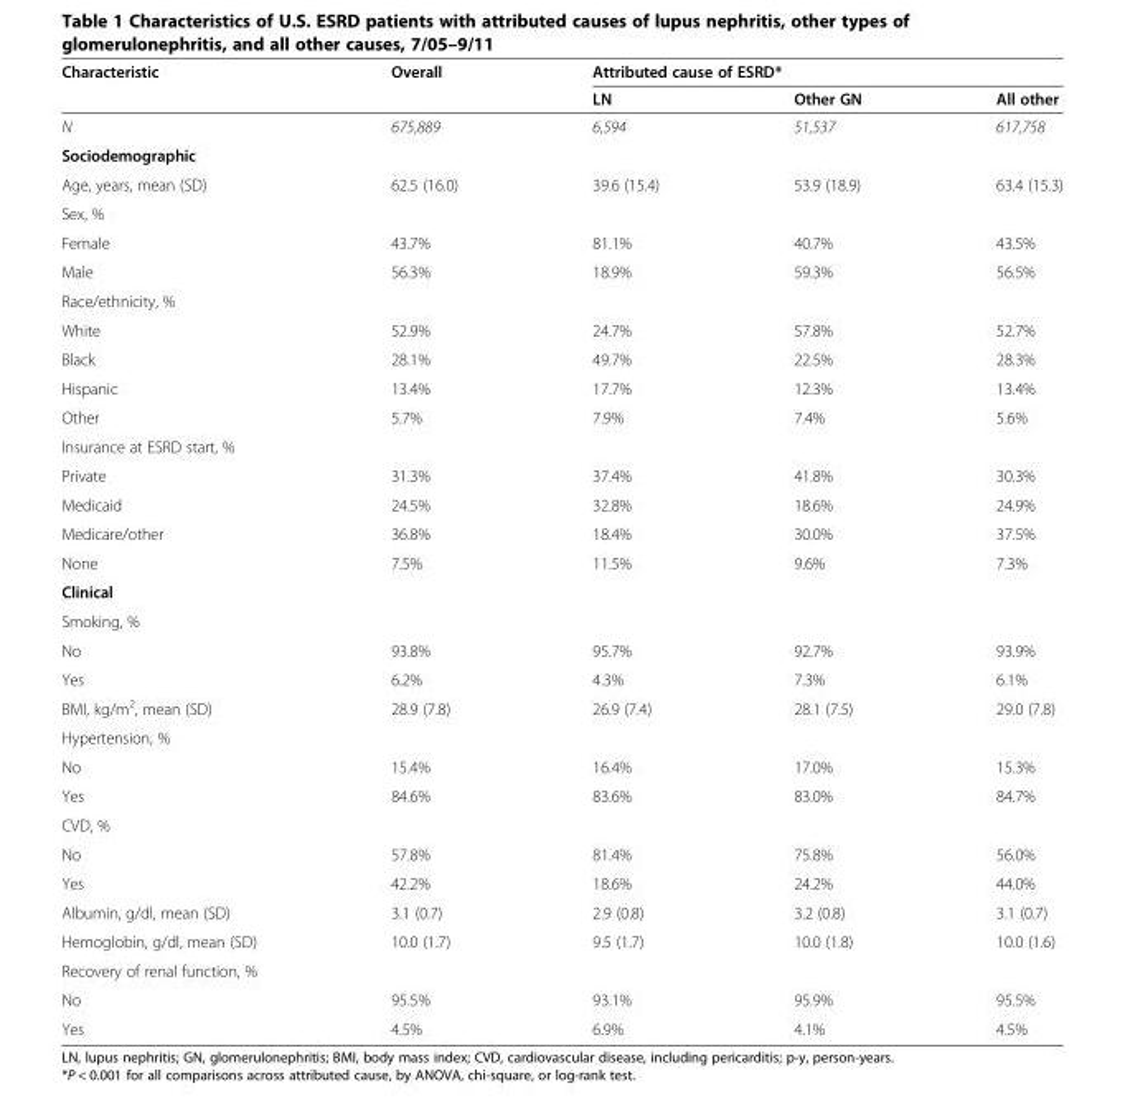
<table><thead><tr><td rowspan="2">Characteristic</td><td rowspan="2">Overall</td><td colspan="3">Attributed cause of ESRD*</td></tr><tr><td>LN</td><td>Other GN</td><td>All other</td></tr></thead><tbody><tr><td>N</td><td>675,889</td><td>6,594</td><td>51,537</td><td>617,758</td></tr><tr><td colspan="5">Sociodemographic</td></tr><tr><td>Age, years, mean (SD)</td><td>62.5 (16.0)</td><td>39.6 (15.4)</td><td>53.9 (18.9)</td><td>63.4 (15.3)</td></tr><tr><td colspan="5">Sex, %</td></tr><tr><td>Female</td><td>43.7%</td><td>81.1%</td><td>40.7%</td><td>43.5%</td></tr><tr><td>Male</td><td>56.3%</td><td>18.9%</td><td>59.3%</td><td>56.5%</td></tr><tr><td colspan="5">Race/ethnicity, %</td></tr><tr><td>White</td><td>52.9%</td><td>24.7%</td><td>57.8%</td><td>52.7%</td></tr><tr><td>Black</td><td>28.1%</td><td>49.7%</td><td>22.5%</td><td>28.3%</td></tr><tr><td>Hispanic</td><td>13.4%</td><td>17.7%</td><td>12.3%</td><td>13.4%</td></tr><tr><td>Other</td><td>5.7%</td><td>7.9%</td><td>7.4%</td><td>5.6%</td></tr><tr><td colspan="5">Insurance at ESRD start, %</td></tr><tr><td>Private</td><td>31.3%</td><td>37.4%</td><td>41.8%</td><td>30.3%</td></tr><tr><td>Medicaid</td><td>24.5%</td><td>32.8%</td><td>18.6%</td><td>24.9%</td></tr><tr><td>Medicare/other</td><td>36.8%</td><td>18.4%</td><td>30.0%</td><td>37.5%</td></tr><tr><td>None</td><td>7.5%</td><td>11.5%</td><td>9.6%</td><td>7.3%</td></tr><tr><td colspan="5">Clinical</td></tr><tr><td colspan="5">Smoking, %</td></tr><tr><td>No</td><td>93.8%</td><td>95.7%</td><td>92.7%</td><td>93.9%</td></tr><tr><td>Yes</td><td>6.2%</td><td>4.3%</td><td>7.3%</td><td>6.1%</td></tr><tr><td>BMI, kg/m<sup>2</sup>, mean (SD)</td><td>28.9 (7.8)</td><td>26.9 (7.4)</td><td>28.1 (7.5)</td><td>29.0 (7.8)</td></tr><tr><td colspan="5">Hypertension, %</td></tr><tr><td>No</td><td>15.4%</td><td>16.4%</td><td>17.0%</td><td>15.3%</td></tr><tr><td>Yes</td><td>84.6%</td><td>83.6%</td><td>83.0%</td><td>84.7%</td></tr><tr><td colspan="5">CVD, %</td></tr><tr><td>No</td><td>57.8%</td><td>81.4%</td><td>75.8%</td><td>56.0%</td></tr><tr><td>Yes</td><td>42.2%</td><td>18.6%</td><td>24.2%</td><td>44.0%</td></tr><tr><td>Albumin, g/dl, mean (SD)</td><td>3.1 (0.7)</td><td>2.9 (0.8)</td><td>3.2 (0.8)</td><td>3.1 (0.7)</td></tr><tr><td>Hemoglobin, g/dl, mean (SD)</td><td>10.0 (1.7)</td><td>9.5 (1.7)</td><td>10.0 (1.8)</td><td>10.0 (1.6)</td></tr><tr><td colspan="5">Recovery of renal function, %</td></tr><tr><td>No</td><td>95.5%</td><td>93.1%</td><td>95.9%</td><td>95.5%</td></tr><tr><td>Yes</td><td>4.5%</td><td>6.9%</td><td>4.1%</td><td>4.5%</td></tr></tbody></table>